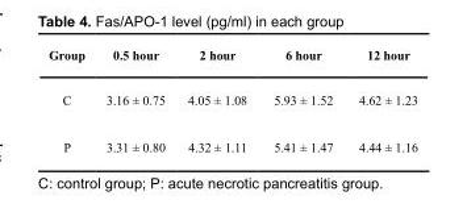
<table><thead><tr><td>Group</td><td>0.5 hour</td><td>2 hour</td><td>6 hour</td><td>12 hour</td></tr></thead><tbody><tr><td>C</td><td>3.16 ± 0.75</td><td>4.05 ± 1.08</td><td>5.93 ± 1.52</td><td>4.62 ± 1.23</td></tr><tr><td>P</td><td>3.31 ± 0.80</td><td>4.32 ± 1.11</td><td>5.41 ± 1.47</td><td>4.44 ± 1.16</td></tr></tbody></table>